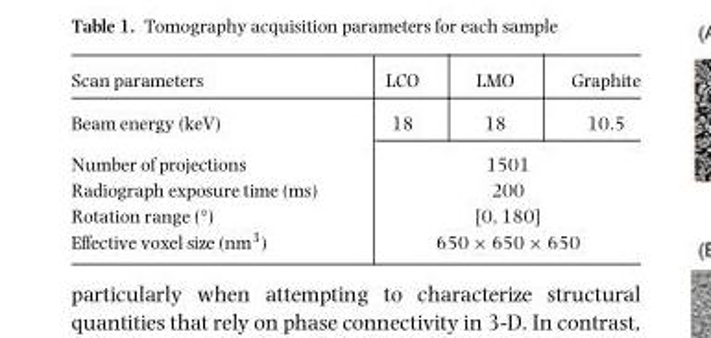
<table><thead><tr><td>Scan parameters</td><td>LCO</td><td>LMO</td><td>Graphite</td></tr></thead><tbody><tr><td>Beam energy (keV)</td><td>18</td><td>18</td><td>10.5</td></tr><tr><td>Number of projections</td><td colspan="3">1501</td></tr><tr><td>Radiograph exposure time (ms)</td><td colspan="3">200</td></tr><tr><td>Rotation range (°)</td><td colspan="3">[0, 180]</td></tr><tr><td>Effective voxel size (nm<sup>3</sup>)</td><td colspan="3">650 × 650 × 650</td></tr></tbody></table>